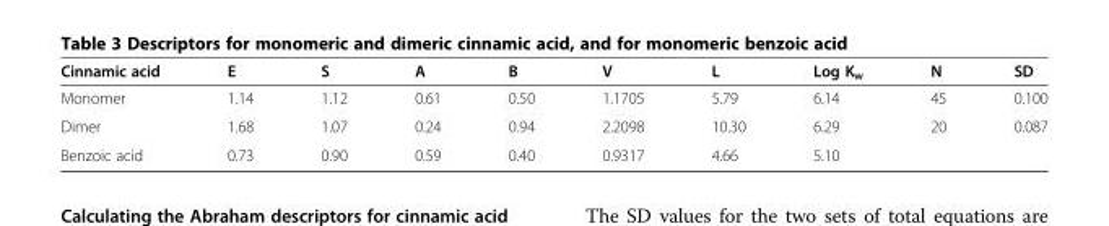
<table><thead><tr><td>Cinnamic acid</td><td>E</td><td>S</td><td>A</td><td>B</td><td>V</td><td>L</td><td>Log K<sub>w</sub></td><td>N</td><td>SD</td></tr></thead><tbody><tr><td>Monomer</td><td>1.14</td><td>1.12</td><td>0.61</td><td>0.50</td><td>1.1705</td><td>5.79</td><td>6.14</td><td>45</td><td>0.100</td></tr><tr><td>Dimer</td><td>1.68</td><td>1.07</td><td>0.24</td><td>0.94</td><td>2.2098</td><td>10.30</td><td>6.29</td><td>20</td><td>0.087</td></tr><tr><td>Benzoic acid</td><td>0.73</td><td>0.90</td><td>0.59</td><td>0.40</td><td>0.9317</td><td>4.66</td><td>5.10</td><td></td><td></td></tr></tbody></table>